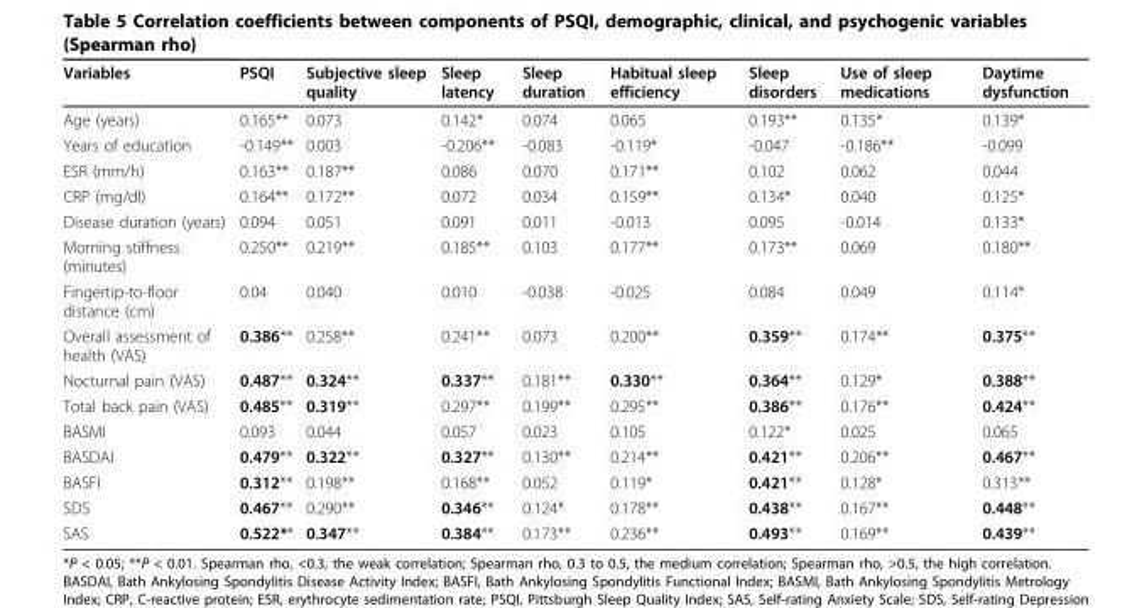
<table><thead><tr><td>Variables</td><td>PSQI</td><td>Subjective sleep quality</td><td>Sleep latency</td><td>Sleep duration</td><td>Habitual sleep efficiency</td><td>Sleep disorders</td><td>Use of sleep medications</td><td>Daytime dysfunction</td></tr></thead><tbody><tr><td>Age (years)</td><td>0.165**</td><td>0.073</td><td>0.142*</td><td>0.074</td><td>0.065</td><td>0.193**</td><td>0.135*</td><td>0.139*</td></tr><tr><td>Years of education</td><td>-0.149**</td><td>0.003</td><td>-0.206**</td><td>-0.083</td><td>-0.119*</td><td>-0.047</td><td>-0.186**</td><td>-0.099</td></tr><tr><td>ESR (mm/h)</td><td>0.163**</td><td>0.187**</td><td>0.086</td><td>0.070</td><td>0.171**</td><td>0.102</td><td>0.062</td><td>0.044</td></tr><tr><td>CRP (mg/dl)</td><td>0.164**</td><td>0.172**</td><td>0.072</td><td>0.034</td><td>0.159**</td><td>0.134*</td><td>0.040</td><td>0.125*</td></tr><tr><td>Disease duration (years)</td><td>0.094</td><td>0.051</td><td>0.091</td><td>0.011</td><td>-0.013</td><td>0.095</td><td>-0.014</td><td>0.133*</td></tr><tr><td>Morning stiffness (minutes)</td><td>0.250**</td><td>0.219**</td><td>0.185**</td><td>0.103</td><td>0.177**</td><td>0.173**</td><td>0.069</td><td>0.180**</td></tr><tr><td>Fingertip-to-floor distance (cm)</td><td>0.04</td><td>0.040</td><td>0.010</td><td>-0.038</td><td>-0.025</td><td>0.084</td><td>0.049</td><td>0.114*</td></tr><tr><td>Overall assessment of health (VAS)</td><td>0.386**</td><td>0.258**</td><td>0.241**</td><td>0.073</td><td>0.200**</td><td>0.359**</td><td>0.174**</td><td>0.375**</td></tr><tr><td>Nocturnal pain (VAS)</td><td>0.487**</td><td>0.324**</td><td>0.337**</td><td>0.181**</td><td>0.330**</td><td>0.364**</td><td>0.129*</td><td>0.388**</td></tr><tr><td>Total back pain (VAS)</td><td>0.485**</td><td>0.319**</td><td>0.297**</td><td>0.199**</td><td>0.295**</td><td>0.386**</td><td>0.176**</td><td>0.424**</td></tr><tr><td>BASMI</td><td>0.093</td><td>0.044</td><td>0.057</td><td>0.023</td><td>0.105</td><td>0.122*</td><td>0.025</td><td>0.065</td></tr><tr><td>BASDAI</td><td>0.479**</td><td>0.322**</td><td>0.327**</td><td>0.130**</td><td>0.214**</td><td>0.421**</td><td>0.206**</td><td>0.467**</td></tr><tr><td>BASFI</td><td>0.312**</td><td>0.198**</td><td>0.168**</td><td>0.052</td><td>0.119*</td><td>0.421**</td><td>0.128*</td><td>0.313**</td></tr><tr><td>SDS</td><td>0.467**</td><td>0.290**</td><td>0.346**</td><td>0.124*</td><td>0.178**</td><td>0.438**</td><td>0.167**</td><td>0.448**</td></tr><tr><td>SAS</td><td>0.522**</td><td>0.347**</td><td>0.384**</td><td>0.173**</td><td>0.236**</td><td>0.493**</td><td>0.169**</td><td>0.439**</td></tr></tbody></table>